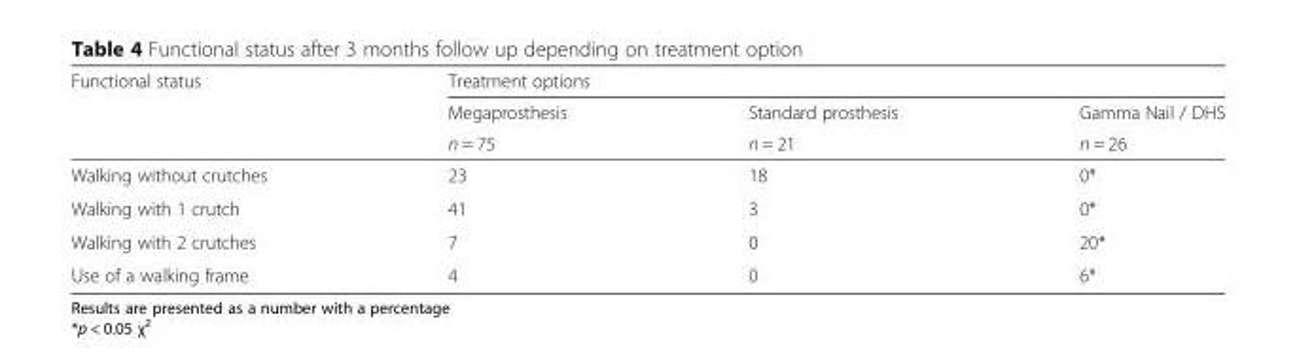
<table><thead><tr><td rowspan="3">Functional status</td><td colspan="3">Treatment options</td></tr><tr><td rowspan="2">Megaprosthesis n = 75</td><td rowspan="2">Standard prosthesis n = 21</td><td rowspan="2">Gamma Nail / DHS n = 26</td></tr><tr></tr></thead><tbody><tr><td>Walking without crutches</td><td>23</td><td>18</td><td>0*</td></tr><tr><td>Walking with 1 crutch</td><td>41</td><td>3</td><td>0*</td></tr><tr><td>Walking with 2 crutches</td><td>7</td><td>0</td><td>20*</td></tr><tr><td>Use of a walking frame</td><td>4</td><td>0</td><td>6*</td></tr></tbody></table>